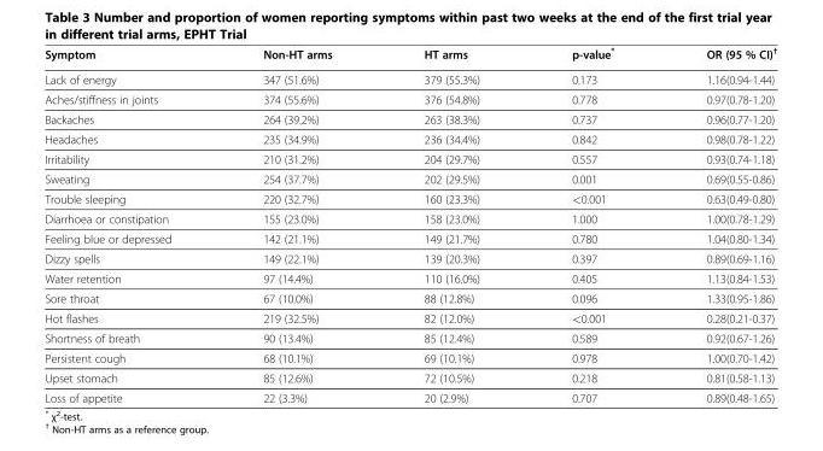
<table><thead><tr><td>Symptom</td><td>Non-HT arms</td><td>HT arms</td><td>p-value*</td><td>OR (95 % CI)<sup>†</sup></td></tr></thead><tbody><tr><td>Lack of energy</td><td>347 (51.6%)</td><td>379 (55.3%)</td><td>0.173</td><td>1.16(0.94-1.44)</td></tr><tr><td>Aches/stiffness in joints</td><td>374 (55.6%)</td><td>376 (54.8%)</td><td>0.778</td><td>0.97(0.78-1.20)</td></tr><tr><td>Backaches</td><td>264 (39.2%)</td><td>263 (38.3%)</td><td>0.737</td><td>0.96(0.77-1.20)</td></tr><tr><td>Headaches</td><td>235 (34.9%)</td><td>236 (34.4%)</td><td>0.842</td><td>0.98(0.78-1.22)</td></tr><tr><td>Irritability</td><td>210 (31.2%)</td><td>204 (29.7%)</td><td>0.557</td><td>0.93(0.74-1.18)</td></tr><tr><td>Sweating</td><td>254 (37.7%)</td><td>202 (29.5%)</td><td>0.001</td><td>0.69(0.55-0.86)</td></tr><tr><td>Trouble sleeping</td><td>220 (32.7%)</td><td>160 (23.3%)</td><td>&lt;0.001</td><td>0.63(0.49-0.80)</td></tr><tr><td>Diarrhoea or constipation</td><td>155 (23.0%)</td><td>158 (23.0%)</td><td>1.000</td><td>1.00(0.78-1.29)</td></tr><tr><td>Feeling blue or depressed</td><td>142 (21.1%)</td><td>149 (21.7%)</td><td>0.780</td><td>1.04(0.80-1.34)</td></tr><tr><td>Dizzy spells</td><td>149 (22.1%)</td><td>139 (20.3%)</td><td>0.397</td><td>0.89(0.69-1.16)</td></tr><tr><td>Water retention</td><td>97 (14.4%)</td><td>110 (16.0%)</td><td>0.405</td><td>1.13(0.84-1.53)</td></tr><tr><td>Sore throat</td><td>67 (10.0%)</td><td>88 (12.8%)</td><td>0.096</td><td>1.33(0.95-1.86)</td></tr><tr><td>Hot flashes</td><td>219 (32.5%)</td><td>82 (12.0%)</td><td>&lt;0.001</td><td>0.28(0.21-0.37)</td></tr><tr><td>Shortness of breath</td><td>90 (13.4%)</td><td>85 (12.4%)</td><td>0.589</td><td>0.92(0.67-1.26)</td></tr><tr><td>Persistent cough</td><td>68 (10.1%)</td><td>69 (10.1%)</td><td>0.978</td><td>1.00(0.70-1.42)</td></tr><tr><td>Upset stomach</td><td>85 (12.6%)</td><td>72 (10.5%)</td><td>0.218</td><td>0.81(0.58-1.13)</td></tr><tr><td>Loss of appetite</td><td>22 (3.3%)</td><td>20 (2.9%)</td><td>0.707</td><td>0.89(0.48-1.65)</td></tr></tbody></table>